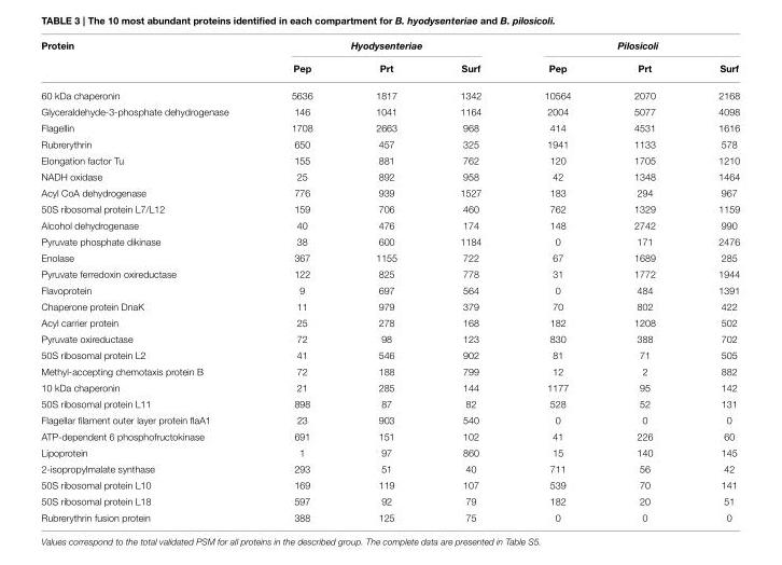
<table><thead><tr><td rowspan="2">Protein</td><td colspan="3">Hyodysenteriae</td><td colspan="3">Pilosicoli</td></tr><tr><td>Pep</td><td>Prt</td><td>Surf</td><td>Pep</td><td>Prt</td><td>Surf</td></tr></thead><tbody><tr><td>60 kDa chaperonin</td><td>5636</td><td>1817</td><td>1342</td><td>10564</td><td>2070</td><td>2168</td></tr><tr><td>Glyceraldehyde-3-phosphate dehydrogenase</td><td>146</td><td>1041</td><td>1164</td><td>2004</td><td>5077</td><td>4098</td></tr><tr><td>Flagellin</td><td>1708</td><td>2663</td><td>968</td><td>414</td><td>4531</td><td>1616</td></tr><tr><td>Rubrerythrin</td><td>650</td><td>457</td><td>325</td><td>1941</td><td>1133</td><td>578</td></tr><tr><td>Elongation factor Tu</td><td>155</td><td>881</td><td>762</td><td>120</td><td>1705</td><td>1210</td></tr><tr><td>NADH oxidase</td><td>25</td><td>892</td><td>958</td><td>42</td><td>1348</td><td>1464</td></tr><tr><td>Acyl CoA dehydrogenase</td><td>776</td><td>939</td><td>1527</td><td>183</td><td>294</td><td>967</td></tr><tr><td>50S ribosomal protein L7/L12</td><td>159</td><td>706</td><td>460</td><td>762</td><td>1329</td><td>1159</td></tr><tr><td>Alcohol dehydrogenase</td><td>40</td><td>476</td><td>174</td><td>148</td><td>2742</td><td>990</td></tr><tr><td>Pyruvate phosphate dikinase</td><td>38</td><td>600</td><td>1184</td><td>0</td><td>171</td><td>2476</td></tr><tr><td>Enolase</td><td>367</td><td>1155</td><td>722</td><td>67</td><td>1689</td><td>285</td></tr><tr><td>Pyruvate ferredoxin oxireductase</td><td>122</td><td>825</td><td>778</td><td>31</td><td>1772</td><td>1944</td></tr><tr><td>Flavoprotein</td><td>9</td><td>697</td><td>564</td><td>0</td><td>484</td><td>1391</td></tr><tr><td>Chaperone protein DnaK</td><td>11</td><td>979</td><td>379</td><td>70</td><td>802</td><td>422</td></tr><tr><td>Acyl carrier protein</td><td>25</td><td>278</td><td>168</td><td>182</td><td>1208</td><td>502</td></tr><tr><td>Pyruvate oxireductase</td><td>72</td><td>98</td><td>123</td><td>830</td><td>388</td><td>702</td></tr><tr><td>50S ribosomal protein L2</td><td>41</td><td>546</td><td>902</td><td>81</td><td>71</td><td>505</td></tr><tr><td>Methyl-accepting chemotaxis protein B</td><td>72</td><td>188</td><td>799</td><td>12</td><td>2</td><td>882</td></tr><tr><td>10 kDa chaperonin</td><td>21</td><td>285</td><td>144</td><td>1177</td><td>95</td><td>142</td></tr><tr><td>50S ribosomal protein L11</td><td>898</td><td>87</td><td>82</td><td>528</td><td>52</td><td>131</td></tr><tr><td>Flagellar filament outer layer protein flaA1</td><td>23</td><td>903</td><td>540</td><td>0</td><td>0</td><td>0</td></tr><tr><td>ATP-dependent 6 phosphofructokinase</td><td>691</td><td>151</td><td>102</td><td>41</td><td>226</td><td>60</td></tr><tr><td>Lipoprotein</td><td>1</td><td>97</td><td>860</td><td>15</td><td>140</td><td>145</td></tr><tr><td>2-isopropylmalate synthase</td><td>293</td><td>51</td><td>40</td><td>711</td><td>56</td><td>42</td></tr><tr><td>50S ribosomal protein L10</td><td>169</td><td>119</td><td>107</td><td>539</td><td>70</td><td>141</td></tr><tr><td>50S ribosomal protein L18</td><td>597</td><td>92</td><td>79</td><td>182</td><td>20</td><td>51</td></tr><tr><td>Rubrerythrin fusion protein</td><td>388</td><td>125</td><td>75</td><td>0</td><td>0</td><td>0</td></tr></tbody></table>